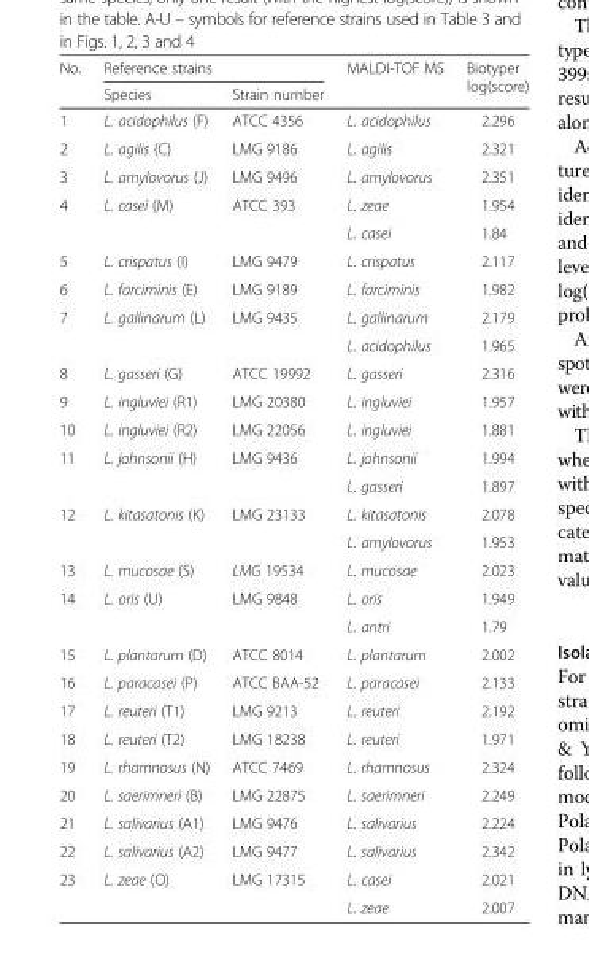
<table><thead><tr><td rowspan="2">No.</td><td colspan="2">Reference strains</td><td rowspan="2">MALDI-TOF MS</td><td rowspan="2">Biotyper log(score)</td></tr><tr><td>Species</td><td>Strain number</td></tr></thead><tbody><tr><td>1</td><td>L. acidophilus (F)</td><td>ATCC 4356</td><td>L. acidophilus</td><td>2.296</td></tr><tr><td>2</td><td>L. agilis (C)</td><td>LMG 9186</td><td>L. agilis</td><td>2.321</td></tr><tr><td>3</td><td>L. amylovorus (J)</td><td>LMG 9496</td><td>L. amylovorus</td><td>2.351</td></tr><tr><td rowspan="2">4</td><td rowspan="2">L. casei (M)</td><td rowspan="2">ATCC 393</td><td>L. zeae</td><td>1.954</td></tr><tr><td>L. casei</td><td>1.84</td></tr><tr><td>5</td><td>L. crispatus (I)</td><td>LMG 9479</td><td>L. crispatus</td><td>2.117</td></tr><tr><td>6</td><td>L. farciminis (E)</td><td>LMG 9189</td><td>L. farciminis</td><td>1.982</td></tr><tr><td rowspan="2">7</td><td rowspan="2">L. gallinarum (L)</td><td rowspan="2">LMG 9435</td><td>L. gallinarum</td><td>2.179</td></tr><tr><td>L. acidophilus</td><td>1.965</td></tr><tr><td>8</td><td>L. gasseri (G)</td><td>ATCC 19992</td><td>L. gasseri</td><td>2.316</td></tr><tr><td>9</td><td>L. ingluviei (R1)</td><td>LMG 20380</td><td>L. ingluviei</td><td>1.957</td></tr><tr><td>10</td><td>L. ingluviei (R2)</td><td>LMG 22056</td><td>L. ingluviei</td><td>1.881</td></tr><tr><td rowspan="2">11</td><td rowspan="2">L. johnsonii (H)</td><td rowspan="2">LMG 9436</td><td>L. johnsonii</td><td>1.994</td></tr><tr><td>L. gasseri</td><td>1.897</td></tr><tr><td rowspan="2">12</td><td rowspan="2">L. kitasatonis (K)</td><td rowspan="2">LMG 23133</td><td>L. kitasatonis</td><td>2.078</td></tr><tr><td>L. amylovorus</td><td>1.953</td></tr><tr><td>13</td><td>L. mucosae (S)</td><td>LMG 19534</td><td>L. mucosae</td><td>2.023</td></tr><tr><td rowspan="2">14</td><td rowspan="2">L. oris (U)</td><td rowspan="2">LMG 9848</td><td>L. oris</td><td>1.949</td></tr><tr><td>L. antri</td><td>1.79</td></tr><tr><td>15</td><td>L. plantarum (D)</td><td>ATCC 8014</td><td>L. plantarum</td><td>2.002</td></tr><tr><td>16</td><td>L. paracasei (P)</td><td>ATCC BAA-52</td><td>L. paracasei</td><td>2.133</td></tr><tr><td>17</td><td>L. reuteri (T1)</td><td>LMG 9213</td><td>L. reuteri</td><td>2.192</td></tr><tr><td>18</td><td>L. reuteri (T2)</td><td>LMG 18238</td><td>L. reuteri</td><td>1.971</td></tr><tr><td>19</td><td>L. rhamnosus (N)</td><td>ATCC 7469</td><td>L. rhamnosus</td><td>2.324</td></tr><tr><td>20</td><td>L. saerimneri (B)</td><td>LMG 22875</td><td>L. saerimneri</td><td>2.249</td></tr><tr><td>21</td><td>L. salivarius (A1)</td><td>LMG 9476</td><td>L. salivarius</td><td>2.224</td></tr><tr><td>22</td><td>L. salivarius (A2)</td><td>LMG 9477</td><td>L. salivarius</td><td>2.342</td></tr><tr><td rowspan="2">23</td><td rowspan="2">L. zeae (O)</td><td rowspan="2">LMG 17315</td><td>L. casei</td><td>2.021</td></tr><tr><td>L. zeae</td><td>2.007</td></tr></tbody></table>